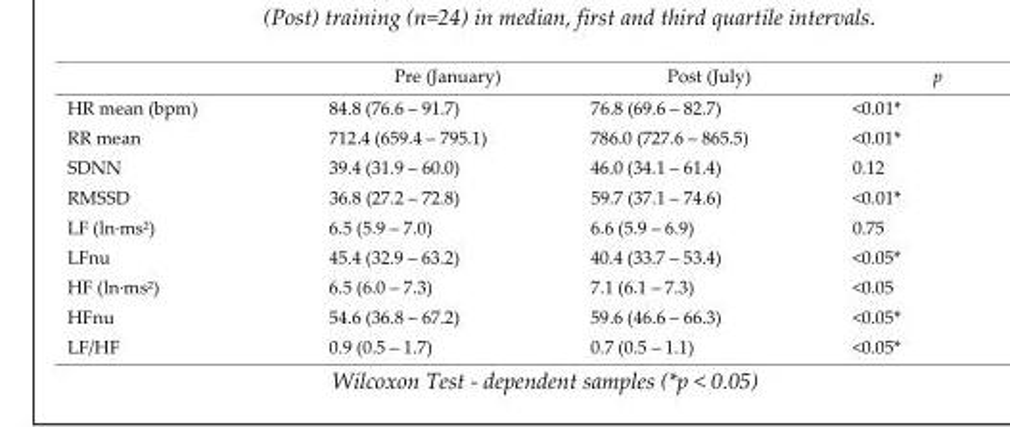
<table><thead><tr><td></td><td>Pre (January)</td><td>Post (July)</td><td>p</td></tr></thead><tbody><tr><td>HR mean (bpm)</td><td>84.8 (76.6 – 91.7)</td><td>76.8 (69.6 – 82.7)</td><td>&lt;0.01*</td></tr><tr><td>RR mean</td><td>712.4 (659.4 – 795.1)</td><td>786.0 (727.6 – 865.5)</td><td>&lt;0.01*</td></tr><tr><td>SDNN</td><td>39.4 (31.9 – 60.0)</td><td>46.0 (34.1 – 61.4)</td><td>0.12</td></tr><tr><td>RMSSD</td><td>36.8 (27.2 – 72.8)</td><td>59.7 (37.1 – 74.6)</td><td>&lt;0.01*</td></tr><tr><td>LF (ln·ms<sup>2</sup>)</td><td>6.5 (5.9 – 7.0)</td><td>6.6 (5.9 – 6.9)</td><td>0.75</td></tr><tr><td>LFnu</td><td>45.4 (32.9 – 63.2)</td><td>40.4 (33.7 – 53.4)</td><td>&lt;0.05*</td></tr><tr><td>HF (ln·ms<sup>2</sup>)</td><td>6.5 (6.0 – 7.3)</td><td>7.1 (6.1 – 7.3)</td><td>&lt;0.05</td></tr><tr><td>HFnu</td><td>54.6 (36.8 – 67.2)</td><td>59.6 (46.6 – 66.3)</td><td>&lt;0.05*</td></tr><tr><td>LF/HF</td><td>0.9 (0.5 – 1.7)</td><td>0.7 (0.5 – 1.1)</td><td>&lt;0.05*</td></tr></tbody></table>